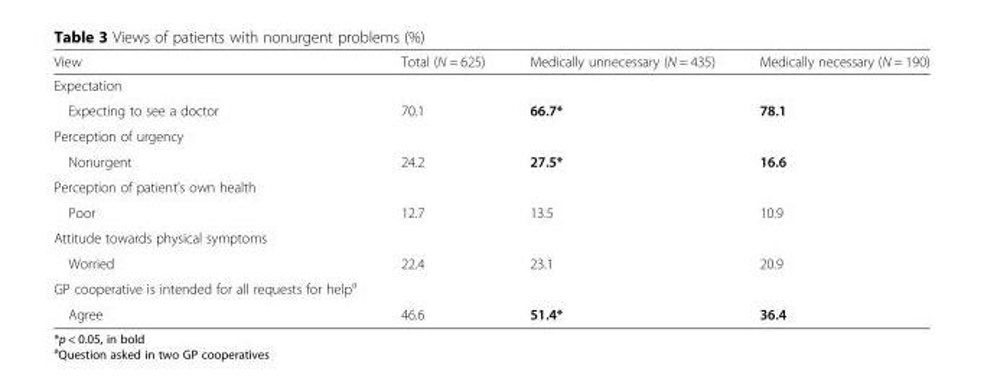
<table><thead><tr><td>View</td><td>Total (N = 625)</td><td>Medically unnecessary (N = 435)</td><td>Medically necessary (N = 190)</td></tr></thead><tbody><tr><td colspan="4">Expectation</td></tr><tr><td>Expecting to see a doctor</td><td>70.1</td><td>66.7*</td><td>78.1</td></tr><tr><td colspan="4">Perception of urgency</td></tr><tr><td>Nonurgent</td><td>24.2</td><td>27.5*</td><td>16.6</td></tr><tr><td colspan="4">Perception of patient’s own health</td></tr><tr><td>Poor</td><td>12.7</td><td>13.5</td><td>10.9</td></tr><tr><td colspan="4">Attitude towards physical symptoms</td></tr><tr><td>Worried</td><td>22.4</td><td>23.1</td><td>20.9</td></tr><tr><td colspan="4">GP cooperative is intended for all requests for help<sup>a</sup></td></tr><tr><td>Agree</td><td>46.6</td><td>51.4*</td><td>36.4</td></tr></tbody></table>